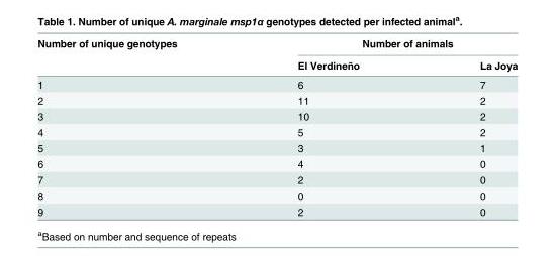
<table><thead><tr><td rowspan="2">Number of unique genotypes</td><td colspan="2">Number of animals</td></tr><tr><td>El Verdineño</td><td>La Joya</td></tr></thead><tbody><tr><td>1</td><td>6</td><td>7</td></tr><tr><td>2</td><td>11</td><td>2</td></tr><tr><td>3</td><td>10</td><td>2</td></tr><tr><td>4</td><td>5</td><td>2</td></tr><tr><td>5</td><td>3</td><td>1</td></tr><tr><td>6</td><td>4</td><td>0</td></tr><tr><td>7</td><td>2</td><td>0</td></tr><tr><td>8</td><td>0</td><td>0</td></tr><tr><td>9</td><td>2</td><td>0</td></tr></tbody></table>